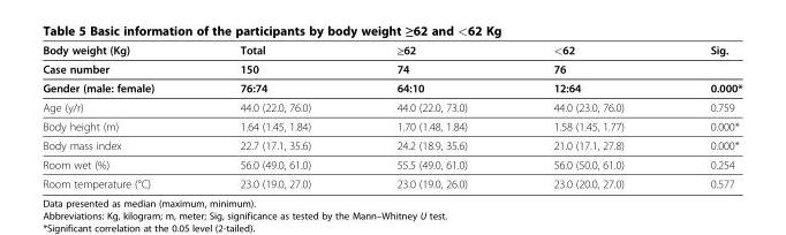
<table><thead><tr><td rowspan="3">Body weight (Kg) Case number Gender (male: female)</td><td rowspan="3">Total 150 76:74</td><td rowspan="3">≥62 74 64:10</td><td rowspan="3">&lt;62 76 12:64</td><td rowspan="3">Sig. 0.000*</td></tr><tr></tr><tr></tr></thead><tbody><tr><td>Age (y/r)</td><td>44.0 (22.0, 76.0)</td><td>44.0 (22.0, 73.0)</td><td>44.0 (23.0, 76.0)</td><td>0.759</td></tr><tr><td>Body height (m)</td><td>1.64 (1.45, 1.84)</td><td>1.70 (1.48, 1.84)</td><td>1.58 (1.45, 1.77)</td><td>0.000*</td></tr><tr><td>Body mass index</td><td>22.7 (17.1, 35.6)</td><td>24.2 (18.9, 35.6)</td><td>21.0 (17.1, 27.8)</td><td>0.000*</td></tr><tr><td>Room wet (%)</td><td>56.0 (49.0, 61.0)</td><td>55.5 (49.0, 61.0)</td><td>56.0 (50.0, 61.0)</td><td>0.254</td></tr><tr><td>Room temperature (°C)</td><td>23.0 (19.0, 27.0)</td><td>23.0 (19.0, 26.0)</td><td>23.0 (20.0, 27.0)</td><td>0.577</td></tr></tbody></table>